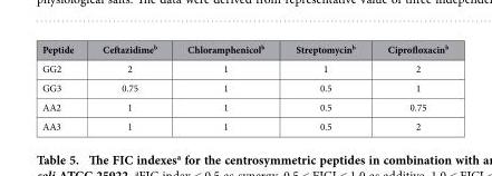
<table><thead><tr><td>Peptide</td><td>Ceftazidime<sup>b</sup></td><td>Chloramphenicol<sup>b</sup></td><td>Streptomycin<sup>b</sup></td><td>Ciprofloxacin<sup>b</sup></td></tr></thead><tbody><tr><td>GG2</td><td>2</td><td>1</td><td>1</td><td>2</td></tr><tr><td>GG3</td><td>0.75</td><td>1</td><td>0.5</td><td>1</td></tr><tr><td>AA2</td><td>1</td><td>1</td><td>0.5</td><td>0.75</td></tr><tr><td>AA3</td><td>1</td><td>1</td><td>0.5</td><td>2</td></tr></tbody></table>